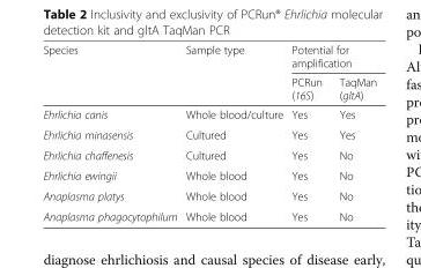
<table><thead><tr><td rowspan="2">Species</td><td rowspan="2">Sample type</td><td colspan="2">Potential for amplification</td></tr><tr><td>PCRun (16S)</td><td>TaqMan (gltA)</td></tr></thead><tbody><tr><td>Ehrlichia canis</td><td>Whole blood/culture</td><td>Yes</td><td>Yes</td></tr><tr><td>Ehrlichia minasensis</td><td>Cultured</td><td>Yes</td><td>Yes</td></tr><tr><td>Ehrlichia chaffenesis</td><td>Cultured</td><td>Yes</td><td>No</td></tr><tr><td>Ehrlichia ewingii</td><td>Whole blood</td><td>Yes</td><td>No</td></tr><tr><td>Anaplasma platys</td><td>Whole blood</td><td>Yes</td><td>No</td></tr><tr><td>Anaplasma phagocytophilum</td><td>Whole blood</td><td>Yes</td><td>No</td></tr></tbody></table>